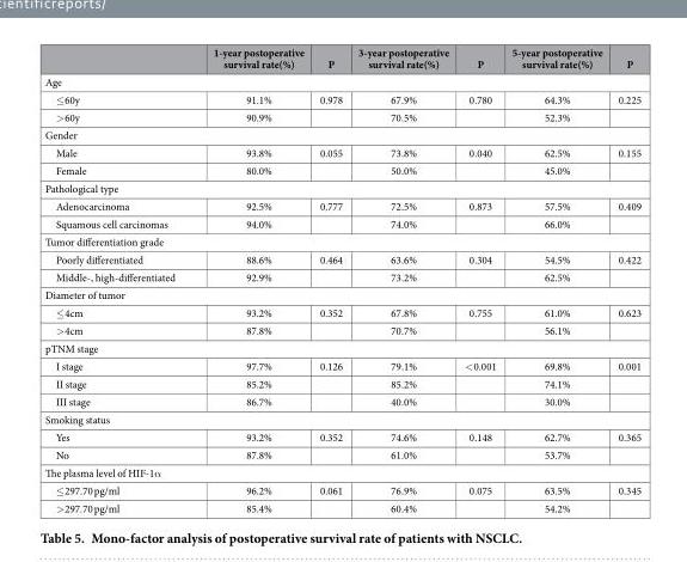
<table><thead><tr><td></td><td>1-year postoperative survival rate(%)</td><td>P</td><td>3-year postoperative survival rate(%)</td><td>P</td><td>5-year postoperative survival rate(%)</td><td>P</td></tr></thead><tbody><tr><td colspan="7">Age</td></tr><tr><td>≤ 60y</td><td>91.1%</td><td>0.978</td><td>67.9%</td><td>0.780</td><td>64.3%</td><td>0.225</td></tr><tr><td>&gt; 60y</td><td>90.9%</td><td></td><td>70.5%</td><td></td><td>52.3%</td><td></td></tr><tr><td colspan="7">Gender</td></tr><tr><td>Male</td><td>93.8%</td><td>0.055</td><td>73.8%</td><td>0.040</td><td>62.5%</td><td>0.155</td></tr><tr><td>Female</td><td>80.0%</td><td></td><td>50.0%</td><td></td><td>45.0%</td><td></td></tr><tr><td colspan="7">Pathological type</td></tr><tr><td>Adenocarcinoma</td><td>92.5%</td><td>0.777</td><td>72.5%</td><td>0.873</td><td>57.5%</td><td>0.409</td></tr><tr><td>Squamous cell carcinomas</td><td>94.0%</td><td></td><td>74.0%</td><td></td><td>66.0%</td><td></td></tr><tr><td colspan="7">Tumor differentiation grade</td></tr><tr><td>Poorly differentiated</td><td>88.6%</td><td>0.464</td><td>63.6%</td><td>0.304</td><td>54.5%</td><td>0.422</td></tr><tr><td>Middle-, high-differentiated</td><td>92.9%</td><td></td><td>73.2%</td><td></td><td>62.5%</td><td></td></tr><tr><td colspan="7">Diameter of tumor</td></tr><tr><td>≤ 4cm</td><td>93.2%</td><td>0.352</td><td>67.8%</td><td>0.755</td><td>61.0%</td><td>0.623</td></tr><tr><td>&gt; 4cm</td><td>87.8%</td><td></td><td>70.7%</td><td></td><td>56.1%</td><td></td></tr><tr><td colspan="7">pTNM stage</td></tr><tr><td>I stage</td><td>97.7%</td><td>0.126</td><td>79.1%</td><td>&lt; 0.001</td><td>69.8%</td><td>0.001</td></tr><tr><td>II stage</td><td>85.2%</td><td></td><td>85.2%</td><td></td><td>74.1%</td><td></td></tr><tr><td>III stage</td><td>86.7%</td><td></td><td>40.0%</td><td></td><td>30.0%</td><td></td></tr><tr><td colspan="7">Smoking status</td></tr><tr><td>Yes</td><td>93.2%</td><td>0.352</td><td>74.6%</td><td>0.148</td><td>62.7%</td><td>0.365</td></tr><tr><td>No</td><td>87.8%</td><td></td><td>61.0%</td><td></td><td>53.7%</td><td></td></tr><tr><td colspan="7">The plasma level of HIF-1α</td></tr><tr><td>≤ 297.70 pg/ml</td><td>96.2%</td><td>0.061</td><td>76.9%</td><td>0.075</td><td>63.5%</td><td>0.345</td></tr><tr><td>&gt; 297.70 pg/ml</td><td>85.4%</td><td></td><td>60.4%</td><td></td><td>54.2%</td><td></td></tr></tbody></table>